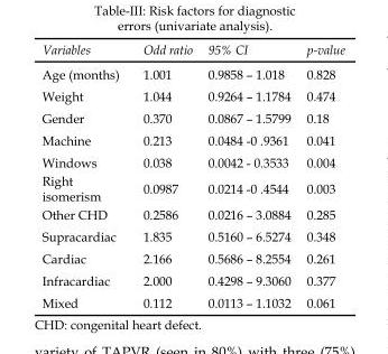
<table><thead><tr><td>Variables</td><td>Odd ratio</td><td>95% CI</td><td>p-value</td></tr></thead><tbody><tr><td>Age (months)</td><td>1.001</td><td>0.9858 – 1.018</td><td>0.828</td></tr><tr><td>Weight</td><td>1.044</td><td>0.9264 – 1.1784</td><td>0.474</td></tr><tr><td>Gender</td><td>0.370</td><td>0.0867 – 1.5799</td><td>0.18</td></tr><tr><td>Machine</td><td>0.213</td><td>0.0484 -0 .9361</td><td>0.041</td></tr><tr><td>Windows</td><td>0.038</td><td>0.0042 - 0.3533</td><td>0.004</td></tr><tr><td>Right isomerism</td><td>0.0987</td><td>0.0214 -0 .4544</td><td>0.003</td></tr><tr><td>Other CHD</td><td>0.2586</td><td>0.0216 – 3.0884</td><td>0.285</td></tr><tr><td>Supracardiac</td><td>1.835</td><td>0.5160 – 6.5274</td><td>0.348</td></tr><tr><td>Cardiac</td><td>2.166</td><td>0.5686 – 8.2554</td><td>0.261</td></tr><tr><td>Infracardiac</td><td>2.000</td><td>0.4298 – 9.3060</td><td>0.377</td></tr><tr><td>Mixed</td><td>0.112</td><td>0.0113 – 1.1032</td><td>0.061</td></tr></tbody></table>